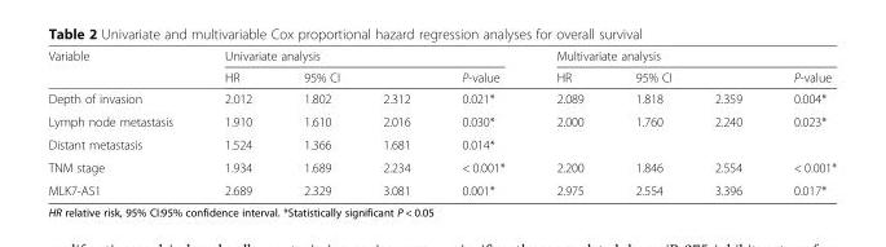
<table><thead><tr><td rowspan="3">Variable Depth of invasion</td><td colspan="4">Univariate analysis</td><td colspan="4">Multivariate analysis</td></tr><tr><td rowspan="2">HR 2.012</td><td colspan="2">95% CI</td><td rowspan="2">P-value 0.021*</td><td rowspan="2">HR 2.089</td><td colspan="2">95% CI</td><td rowspan="2">P-value 0.004*</td></tr><tr><td>1.802</td><td>2.312</td><td>1.818</td><td>2.359</td></tr></thead><tbody><tr><td>Lymph node metastasis</td><td>1.910</td><td>1.610</td><td>2.016</td><td>0.030*</td><td>2.000</td><td>1.760</td><td>2.240</td><td>0.023*</td></tr><tr><td>Distant metastasis</td><td>1.524</td><td>1.366</td><td>1.681</td><td>0.014*</td><td></td><td></td><td></td><td></td></tr><tr><td>TNM stage</td><td>1.934</td><td>1.689</td><td>2.234</td><td>&lt; 0.001*</td><td>2.200</td><td>1.846</td><td>2.554</td><td>&lt; 0.001*</td></tr><tr><td>MLK7-AS1</td><td>2.689</td><td>2.329</td><td>3.081</td><td>0.001*</td><td>2.975</td><td>2.554</td><td>3.396</td><td>0.017*</td></tr></tbody></table>